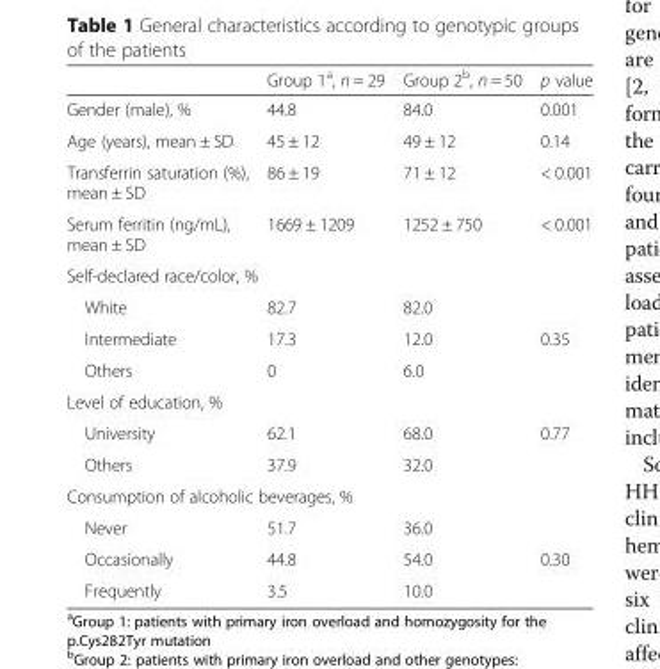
<table><thead><tr><td></td><td>Group 1<sup>a</sup>, n = 29</td><td>Group 2<sup>b</sup>, n = 50</td><td>p value</td></tr></thead><tbody><tr><td>Gender (male), %</td><td>44.8</td><td>84.0</td><td>0.001</td></tr><tr><td>Age (years), mean ± SD</td><td>45 ± 12</td><td>49 ± 12</td><td>0.14</td></tr><tr><td>Transferrin saturation (%), mean ± SD</td><td>86 ± 19</td><td>71 ± 12</td><td>&lt; 0.001</td></tr><tr><td>Serum ferritin (ng/mL), mean ± SD</td><td>1669 ± 1209</td><td>1252 ± 750</td><td>&lt; 0.001</td></tr><tr><td colspan="4">Self-declared race/color, %</td></tr><tr><td>White</td><td>82.7</td><td>82.0</td><td></td></tr><tr><td>Intermediate</td><td>17.3</td><td>12.0</td><td>0.35</td></tr><tr><td>Others</td><td>0</td><td>6.0</td><td></td></tr><tr><td colspan="4">Level of education, %</td></tr><tr><td>University</td><td>62.1</td><td>68.0</td><td rowspan="2">0.77</td></tr><tr><td>Others</td><td>37.9</td><td>32.0</td></tr><tr><td colspan="4">Consumption of alcoholic beverages, %</td></tr><tr><td>Never</td><td>51.7</td><td>36.0</td><td></td></tr><tr><td>Occasionally</td><td>44.8</td><td>54.0</td><td>0.30</td></tr><tr><td>Frequently</td><td>3.5</td><td>10.0</td><td></td></tr></tbody></table>